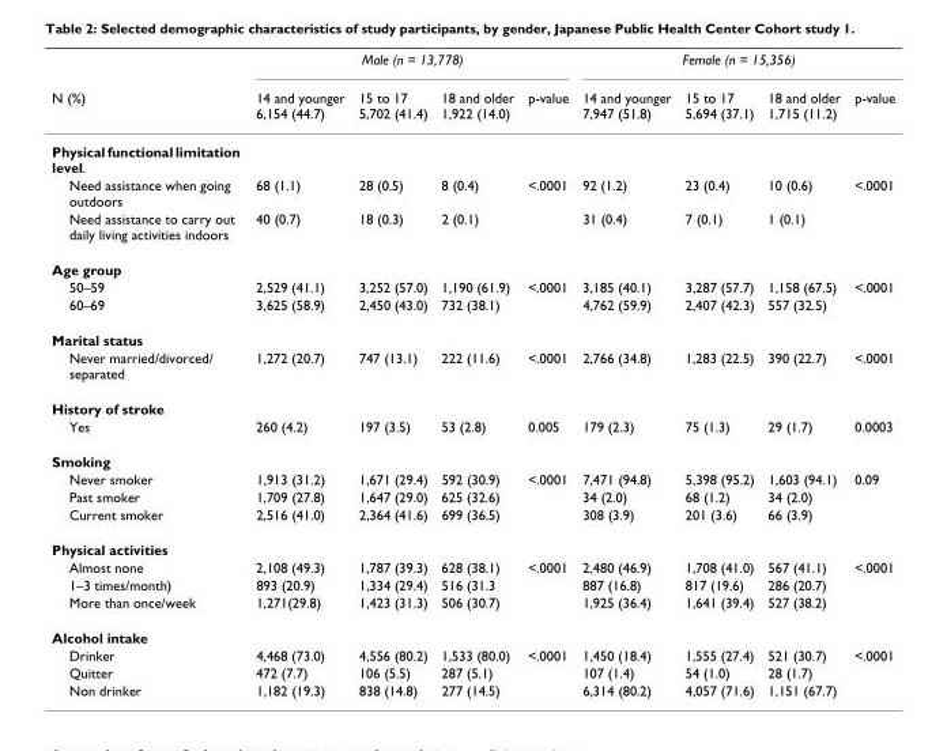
<table><thead><tr><td rowspan="2">N (%)</td><td colspan="4">Male (n = 13,778)</td><td colspan="4">Female (n = 15,356)</td></tr><tr><td>14 and younger 6,154 (44.7)</td><td>15 to 17 5,702 (41.4)</td><td>18 and older 1,922 (14.0)</td><td>p-value</td><td>14 and younger 7,947 (51.8)</td><td>15 to 17 5,694 (37.1)</td><td>18 and older 1,715 (11.2)</td><td>p-value</td></tr></thead><tbody><tr><td colspan="9">Physical functional limitation level.</td></tr><tr><td>Need assistance when going outdoors</td><td>68 (1.1)</td><td>28 (0.5)</td><td>8 (0.4)</td><td>&lt;.0001</td><td>92 (1.2)</td><td>23 (0.4)</td><td>10 (0.6)</td><td>&lt;.0001</td></tr><tr><td>Need assistance to carry out daily living activities indoors</td><td>40 (0.7)</td><td>18 (0.3)</td><td>2 (0.1)</td><td></td><td>31 (0.4)</td><td>7 (0.1)</td><td>1 (0.1)</td><td></td></tr><tr><td colspan="9">Age group</td></tr><tr><td>50–59</td><td>2,529 (41.1)</td><td>3,252 (57.0)</td><td>1,190 (61.9)</td><td>&lt;.0001</td><td>3,185 (40.1)</td><td>3,287 (57.7)</td><td>1,158 (67.5)</td><td>&lt;.0001</td></tr><tr><td>60–69</td><td>3,625 (58.9)</td><td>2,450 (43.0)</td><td>732 (38.1)</td><td></td><td>4,762 (59.9)</td><td>2,407 (42.3)</td><td>557 (32.5)</td><td></td></tr><tr><td colspan="9">Marital status</td></tr><tr><td>Never married/divorced/ separated</td><td>1,272 (20.7)</td><td>747 (13.1)</td><td>222 (11.6)</td><td>&lt;.0001</td><td>2,766 (34.8)</td><td>1,283 (22.5)</td><td>390 (22.7)</td><td>&lt;.0001</td></tr><tr><td colspan="9">History of stroke</td></tr><tr><td>Yes</td><td>260 (4.2)</td><td>197 (3.5)</td><td>53 (2.8)</td><td>0.005</td><td>179 (2.3)</td><td>75 (1.3)</td><td>29 (1.7)</td><td>0.0003</td></tr><tr><td colspan="9">Smoking</td></tr><tr><td>Never smoker</td><td>1,913 (31.2)</td><td>1,671 (29.4)</td><td>592 (30.9)</td><td>&lt;.0001</td><td>7,471 (94.8)</td><td>5,398 (95.2)</td><td>1,603 (94.1)</td><td>0.09</td></tr><tr><td>Past smoker</td><td>1,709 (27.8)</td><td>1,647 (29.0)</td><td>625 (32.6)</td><td></td><td>34 (2.0)</td><td>68 (1.2)</td><td>34 (2.0)</td><td></td></tr><tr><td>Current smoker</td><td>2,516 (41.0)</td><td>2,364 (41.6)</td><td>699 (36.5)</td><td></td><td>308 (3.9)</td><td>201 (3.6)</td><td>66 (3.9)</td><td></td></tr><tr><td colspan="9">Physical activities</td></tr><tr><td>Almost none</td><td>2,108 (49.3)</td><td>1,787 (39.3)</td><td>628 (38.1)</td><td>&lt;.0001</td><td>2,480 (46.9)</td><td>1,708 (41.0)</td><td>567 (41.1)</td><td>&lt;.0001</td></tr><tr><td>1–3 times/month)</td><td>893 (20.9)</td><td>1,334 (29.4)</td><td>516 (31.3</td><td></td><td>887 (16.8)</td><td>817 (19.6)</td><td>286 (20.7)</td><td></td></tr><tr><td>More than once/week</td><td>1,271(29.8)</td><td>1,423 (31.3)</td><td>506 (30.7)</td><td></td><td>1,925 (36.4)</td><td>1,641 (39.4)</td><td>527 (38.2)</td><td></td></tr><tr><td colspan="9">Alcohol intake</td></tr><tr><td>Drinker</td><td>4,468 (73.0)</td><td>4,556 (80.2)</td><td>1,533 (80.0)</td><td>&lt;.0001</td><td>1,450 (18.4)</td><td>1,555 (27.4)</td><td>521 (30.7)</td><td>&lt;.0001</td></tr><tr><td>Quitter</td><td>472 (7.7)</td><td>106 (5.5)</td><td>287 (5.1)</td><td></td><td>107 (1.4)</td><td>54 (1.0)</td><td>28 (1.7)</td><td></td></tr><tr><td>Non drinker</td><td>1,182 (19.3)</td><td>838 (14.8)</td><td>277 (14.5)</td><td></td><td>6,314 (80.2)</td><td>4,057 (71.6)</td><td>1,151 (67.7)</td><td></td></tr></tbody></table>